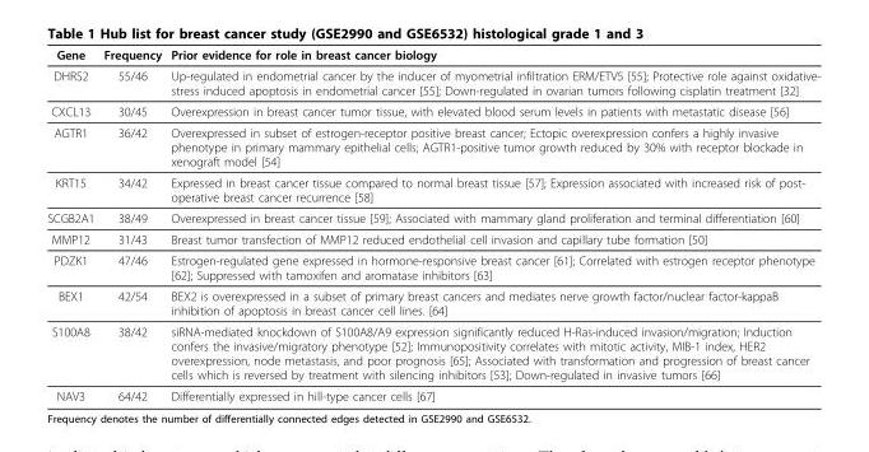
<table><thead><tr><td>Gene</td><td>Frequency</td><td>Prior evidence for role in breast cancer biology</td></tr></thead><tbody><tr><td>DHRS2</td><td>55/46</td><td>Up-regulated in endometrial cancer by the inducer of myometrial infiltration ERM/ETV5 [55]; Protective role against oxidative- stress induced apoptosis in endometrial cancer [55]; Down-regulated in ovarian tumors following cisplatin treatment [32]</td></tr><tr><td>CXCL13</td><td>30/45</td><td>Overexpression in breast cancer tumor tissue, with elevated blood serum levels in patients with metastatic disease [56]</td></tr><tr><td>AGTR1</td><td>36/42</td><td>Overexpressed in subset of estrogen-receptor positive breast cancer; Ectopic overexpression confers a highly invasive phenotype in primary mammary epithelial cells; AGTR1-positive tumor growth reduced by 30% with receptor blockade in xenograft model [54]</td></tr><tr><td>KRT15</td><td>34/42</td><td>Expressed in breast cancer tissue compared to normal breast tissue [57]; Expression associated with increased risk of post- operative breast cancer recurrence [58]</td></tr><tr><td>SCGB2A1</td><td>38/49</td><td>Overexpressed in breast cancer tissue [59]; Associated with mammary gland proliferation and terminal differentiation [60]</td></tr><tr><td>MMP12</td><td>31/43</td><td>Breast tumor transfection of MMP12 reduced endothelial cell invasion and capillary tube formation [50]</td></tr><tr><td>PDZK1</td><td>47/46</td><td>Estrogen-regulated gene expressed in hormone-responsive breast cancer [61]; Correlated with estrogen receptor phenotype [62]; Suppressed with tamoxifen and aromatase inhibitors [63]</td></tr><tr><td>BEX1</td><td>42/54</td><td>BEX2 is overexpressed in a subset of primary breast cancers and mediates nerve growth factor/nuclear factor-kappaB inhibition of apoptosis in breast cancer cell lines. [64]</td></tr><tr><td>S100A8</td><td>38/42</td><td>siRNA-mediated knockdown of S100A8/A9 expression significantly reduced H-Ras-induced invasion/migration; Induction confers the invasive/migratory phenotype [52]; Immunopositivity correlates with mitotic activity, MIB-1 index, HER2 overexpression, node metastasis, and poor prognosis [65]; Associated with transformation and progression of breast cancer cells which is reversed by treatment with silencing inhibitors [53]; Down-regulated in invasive tumors [66]</td></tr><tr><td>NAV3</td><td>64/42</td><td>Differentially expressed in hill-type cancer cells [67]</td></tr></tbody></table>